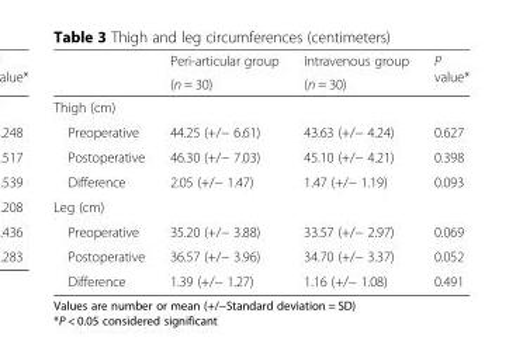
<table><thead><tr><td rowspan="2"></td><td rowspan="2">Peri-articular group (n = 30)</td><td rowspan="2">Intravenous group (n = 30)</td><td rowspan="2">P value*</td></tr><tr></tr></thead><tbody><tr><td colspan="4">Thigh (cm)</td></tr><tr><td>Preoperative</td><td>44.25 (+/− 6.61)</td><td>43.63 (+/− 4.24)</td><td>0.627</td></tr><tr><td>Postoperative</td><td>46.30 (+/− 7.03)</td><td>45.10 (+/− 4.21)</td><td>0.398</td></tr><tr><td>Difference</td><td>2.05 (+/− 1.47)</td><td>1.47 (+/− 1.19)</td><td>0.093</td></tr><tr><td colspan="4">Leg (cm)</td></tr><tr><td>Preoperative</td><td>35.20 (+/− 3.88)</td><td>33.57 (+/− 2.97)</td><td>0.069</td></tr><tr><td>Postoperative</td><td>36.57 (+/− 3.96)</td><td>34.70 (+/− 3.37)</td><td>0.052</td></tr><tr><td>Difference</td><td>1.39 (+/− 1.27)</td><td>1.16 (+/− 1.08)</td><td>0.491</td></tr></tbody></table>